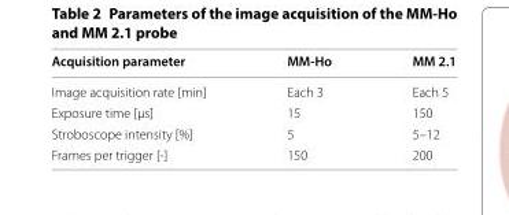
<table><thead><tr><td>Acquisition parameter</td><td>MM-Ho</td><td>MM 2.1</td></tr></thead><tbody><tr><td>Image acquisition rate [min]</td><td>Each 3</td><td>Each 5</td></tr><tr><td>Exposure time [µs]</td><td>15</td><td>150</td></tr><tr><td>Stroboscope intensity [%]</td><td>5</td><td>5–12</td></tr><tr><td>Frames per trigger [‑]</td><td>150</td><td>200</td></tr></tbody></table>